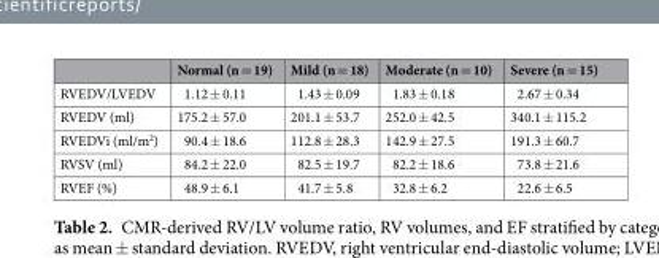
<table><thead><tr><td></td><td>Normal (n = 19)</td><td>Mild (n = 18)</td><td>Moderate (n = 10)</td><td>Severe (n = 15)</td></tr></thead><tbody><tr><td>RVEDV/LVEDV</td><td>1.12 ± 0.11</td><td>1.43 ± 0.09</td><td>1.83 ± 0.18</td><td>2.67 ± 0.34</td></tr><tr><td>RVEDV (ml)</td><td>175.2 ± 57.0</td><td>201.1 ± 53.7</td><td>252.0 ± 42.5</td><td>340.1 ± 115.2</td></tr><tr><td>RVEDVi (ml/m<sup>2</sup>)</td><td>90.4 ± 18.6</td><td>112.8 ± 28.3</td><td>142.9 ± 27.5</td><td>191.3 ± 60.7</td></tr><tr><td>RVSV (ml)</td><td>84.2 ± 22.0</td><td>82.5 ± 19.7</td><td>82.2 ± 18.6</td><td>73.8 ± 21.6</td></tr><tr><td>RVEF (%)</td><td>48.9 ± 6.1</td><td>41.7 ± 5.8</td><td>32.8 ± 6.2</td><td>22.6 ± 6.5</td></tr></tbody></table>